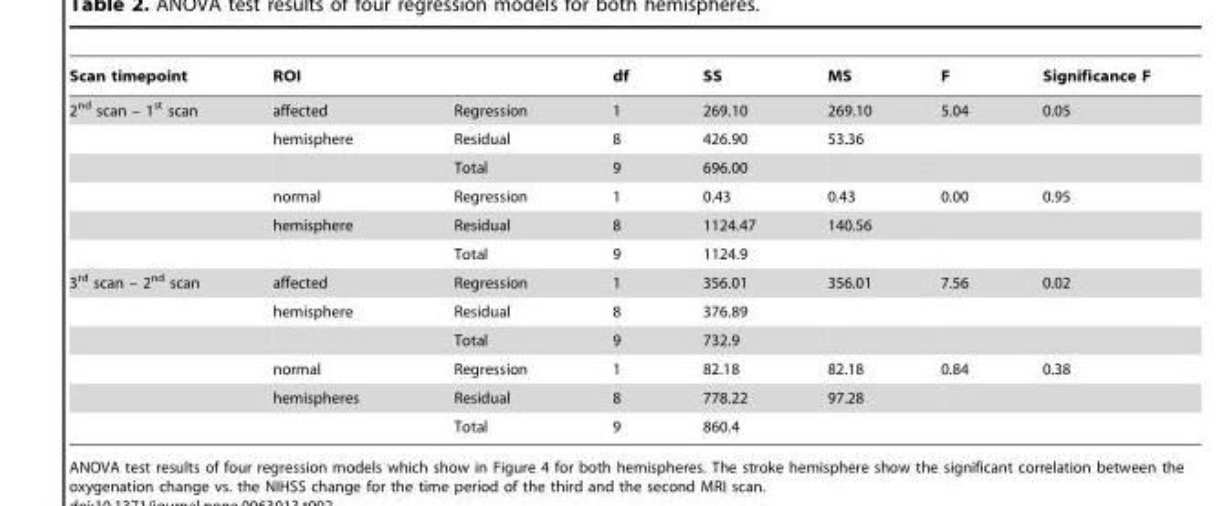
<table><thead><tr><td>Scan timepoint</td><td>ROI</td><td></td><td>df</td><td>SS</td><td>MS</td><td>F</td><td>Significance F</td></tr></thead><tbody><tr><td rowspan="6">2<sup>nd</sup> scan – 1<sup>st</sup> scan</td><td>affected</td><td>Regression</td><td>1</td><td>269.10</td><td>269.10</td><td>5.04</td><td>0.05</td></tr><tr><td>hemisphere</td><td>Residual</td><td>8</td><td>426.90</td><td>53.36</td><td></td><td></td></tr><tr><td></td><td>Total</td><td>9</td><td>696.00</td><td></td><td></td><td></td></tr><tr><td>normal</td><td>Regression</td><td>1</td><td>0.43</td><td>0.43</td><td>0.00</td><td>0.95</td></tr><tr><td>hemisphere</td><td>Residual</td><td>8</td><td>1124.47</td><td>140.56</td><td></td><td></td></tr><tr><td></td><td>Total</td><td>9</td><td>1124.9</td><td></td><td></td><td></td></tr><tr><td rowspan="6">3<sup>rd</sup> scan – 2<sup>nd</sup> scan</td><td>affected</td><td>Regression</td><td>1</td><td>356.01</td><td>356.01</td><td>7.56</td><td>0.02</td></tr><tr><td>hemisphere</td><td>Residual</td><td>8</td><td>376.89</td><td></td><td></td><td></td></tr><tr><td></td><td>Total</td><td>9</td><td>732.9</td><td></td><td></td><td></td></tr><tr><td>normal</td><td>Regression</td><td>1</td><td>82.18</td><td>82.18</td><td>0.84</td><td>0.38</td></tr><tr><td>hemispheres</td><td>Residual</td><td>8</td><td>778.22</td><td>97.28</td><td></td><td></td></tr><tr><td></td><td>Total</td><td>9</td><td>860.4</td><td></td><td></td><td></td></tr></tbody></table>